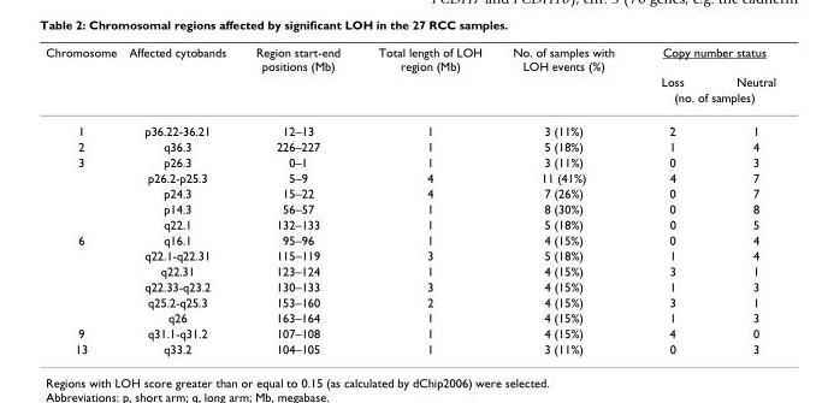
<table><thead><tr><td rowspan="3">Chromosome</td><td rowspan="3">Affected cytobands</td><td rowspan="3">Region start-end positions (Mb)</td><td rowspan="3">Total length of LOH region (Mb)</td><td rowspan="3">No. of samples with LOH events (%)</td><td colspan="2">Copy number status</td></tr><tr><td>Loss</td><td>Neutral</td></tr><tr><td colspan="2">(no. of samples)</td></tr></thead><tbody><tr><td>1</td><td>p36.22-36.21</td><td>12–13</td><td>1</td><td>3 (11%)</td><td>2</td><td>1</td></tr><tr><td>2</td><td>q36.3</td><td>226–227</td><td>1</td><td>5 (18%)</td><td>1</td><td>4</td></tr><tr><td rowspan="5">3</td><td>p26.3</td><td>0–1</td><td>1</td><td>3 (11%)</td><td>0</td><td>3</td></tr><tr><td>p26.2-p25.3</td><td>5–9</td><td>4</td><td>11 (41%)</td><td>4</td><td>7</td></tr><tr><td>p24.3</td><td>15–22</td><td>4</td><td>7 (26%)</td><td>0</td><td>7</td></tr><tr><td>p14.3</td><td>56–57</td><td>1</td><td>8 (30%)</td><td>0</td><td>8</td></tr><tr><td>q22.1</td><td>132–133</td><td>1</td><td>5 (18%)</td><td>0</td><td>5</td></tr><tr><td rowspan="6">6</td><td>q16.1</td><td>95–96</td><td>1</td><td>4 (15%)</td><td>0</td><td>4</td></tr><tr><td>q22.1-q22.31</td><td>115–119</td><td>3</td><td>5 (18%)</td><td>1</td><td>4</td></tr><tr><td>q22.31</td><td>123–124</td><td>1</td><td>4 (15%)</td><td>3</td><td>1</td></tr><tr><td>q22.33-q23.2</td><td>130–133</td><td>3</td><td>4 (15%)</td><td>1</td><td>3</td></tr><tr><td>q25.2-q25.3</td><td>153–160</td><td>2</td><td>4 (15%)</td><td>3</td><td>1</td></tr><tr><td>q26</td><td>163–164</td><td>1</td><td>4 (15%)</td><td>1</td><td>3</td></tr><tr><td>9</td><td>q31.1-q31.2</td><td>107–108</td><td>1</td><td>4 (15%)</td><td>4</td><td>0</td></tr><tr><td>13</td><td>q33.2</td><td>104–105</td><td>1</td><td>3 (11%)</td><td>0</td><td>3</td></tr></tbody></table>